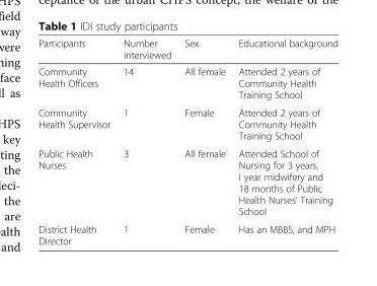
<table><thead><tr><td>Participants</td><td>Number interviewed</td><td>Sex</td><td>Educational background</td></tr></thead><tbody><tr><td>Community Health Officers</td><td>14</td><td>All female</td><td>Attended 2 years of Community Health Training School</td></tr><tr><td>Community Health Supervisor</td><td>1</td><td>Female</td><td>Attended 2 years of Community Health Training School</td></tr><tr><td>Public Health Nurses</td><td>3</td><td>All female</td><td>Attended School of Nursing for 3 years, I year midwifery and 18 months of Public Health Nurses’ Training School</td></tr><tr><td>District Health Director</td><td>1</td><td>Female</td><td>Has an MBBS, and MPH</td></tr></tbody></table>